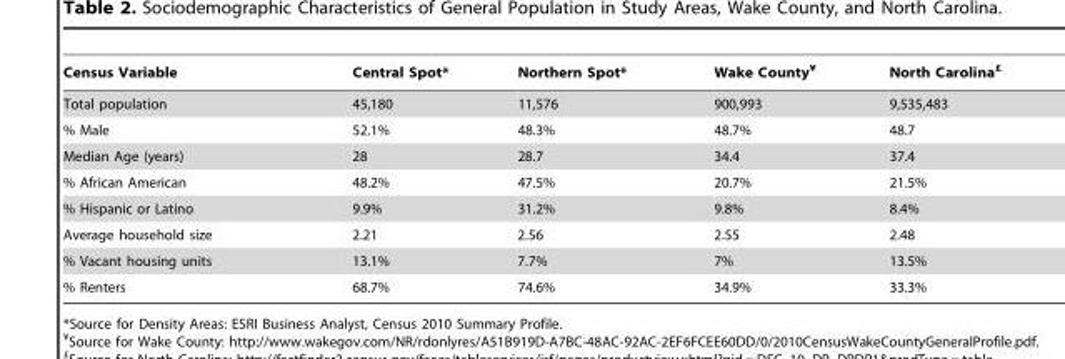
<table><thead><tr><td>Census Variable</td><td>Central Spot*</td><td>Northern Spot*</td><td>Wake County¥</td><td>North Carolina£</td></tr></thead><tbody><tr><td>Total population</td><td>45,180</td><td>11,576</td><td>900,993</td><td>9,535,483</td></tr><tr><td>% Male</td><td>52.1%</td><td>48.3%</td><td>48.7%</td><td>48.7</td></tr><tr><td>Median Age (years)</td><td>28</td><td>28.7</td><td>34.4</td><td>37.4</td></tr><tr><td>% African American</td><td>48.2%</td><td>47.5%</td><td>20.7%</td><td>21.5%</td></tr><tr><td>% Hispanic or Latino</td><td>9.9%</td><td>31.2%</td><td>9.8%</td><td>8.4%</td></tr><tr><td>Average household size</td><td>2.21</td><td>2.56</td><td>2.55</td><td>2.48</td></tr><tr><td>% Vacant housing units</td><td>13.1%</td><td>7.7%</td><td>7%</td><td>13.5%</td></tr><tr><td>% Renters</td><td>68.7%</td><td>74.6%</td><td>34.9%</td><td>33.3%</td></tr></tbody></table>